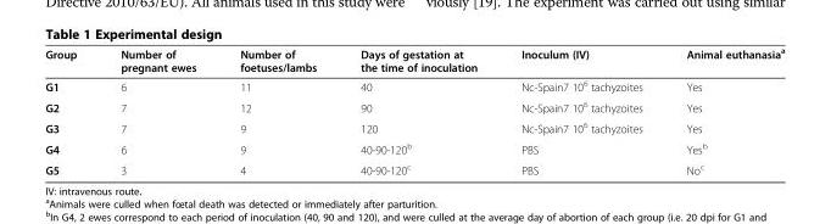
<table><thead><tr><td>Group</td><td>Number of pregnant ewes</td><td>Number of foetuses/lambs</td><td>Days of gestation at the time of inoculation</td><td>Inoculum (IV)</td><td>Animal euthanasia<sup>a</sup></td></tr></thead><tbody><tr><td>G1</td><td>6</td><td>11</td><td>40</td><td>Nc-Spain7 10<sup>6</sup> tachyzoites</td><td>Yes</td></tr><tr><td>G2</td><td>7</td><td>12</td><td>90</td><td>Nc-Spain7 10<sup>6</sup> tachyzoites</td><td>Yes</td></tr><tr><td>G3</td><td>7</td><td>9</td><td>120</td><td>Nc-Spain7 10<sup>6</sup> tachyzoites</td><td>Yes</td></tr><tr><td>G4</td><td>6</td><td>9</td><td>40-90-120<sup>b</sup></td><td>PBS</td><td>Yes<sup>b</sup></td></tr><tr><td>G5</td><td>3</td><td>4</td><td>40-90-120<sup>c</sup></td><td>PBS</td><td>No<sup>c</sup></td></tr></tbody></table>